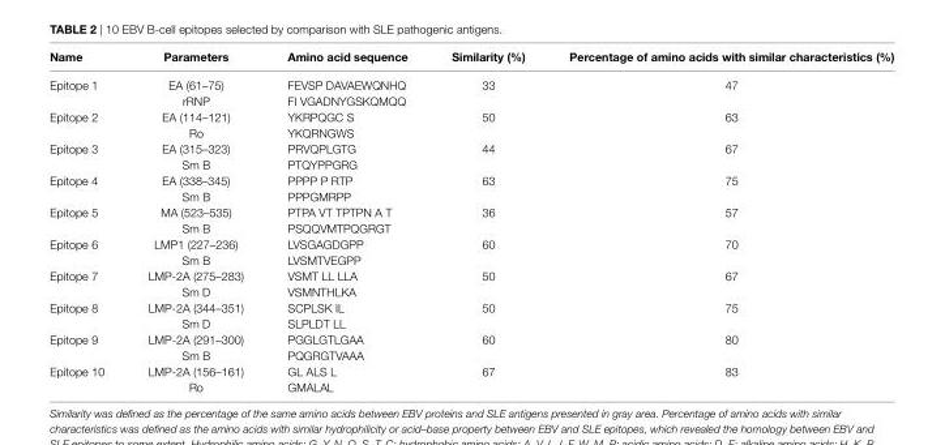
<table><thead><tr><td>name</td><td>Parameters</td><td>amino acid sequence</td><td>similarity (%)</td><td>Percentage of amino acids with similar characteristics (%)</td></tr></thead><tbody><tr><td rowspan="2">Epitope 1</td><td>EA (61–75)</td><td>FEVSP DAVAEWQNHQ</td><td rowspan="2">33</td><td rowspan="2">47</td></tr><tr><td>rRNP</td><td>FI VGADNYGSKQMQQ</td></tr><tr><td rowspan="2">Epitope 2</td><td>EA (114–121)</td><td>YKRPQGC S</td><td rowspan="2">50</td><td rowspan="2">63</td></tr><tr><td>Ro</td><td>YKQRNGWS</td></tr><tr><td rowspan="2">Epitope 3</td><td>EA (315–323)</td><td>PRVQPLGTG</td><td rowspan="2">44</td><td rowspan="2">67</td></tr><tr><td>Sm B</td><td>PTQYPPGRG</td></tr><tr><td rowspan="2">Epitope 4</td><td>EA (338–345)</td><td>PPPP P RTP</td><td rowspan="2">63</td><td rowspan="2">75</td></tr><tr><td>Sm B</td><td>PPPGMRPP</td></tr><tr><td rowspan="2">Epitope 5</td><td>MA (523–535)</td><td>PTPA VT TPTPN A T</td><td rowspan="2">36</td><td rowspan="2">57</td></tr><tr><td>Sm B</td><td>PSQQVMTPQGRGT</td></tr><tr><td rowspan="2">Epitope 6</td><td>LMP1 (227–236)</td><td>LVSGAGDGPP</td><td rowspan="2">60</td><td rowspan="2">70</td></tr><tr><td>Sm B</td><td>LVSMTVEGPP</td></tr><tr><td rowspan="2">Epitope 7</td><td>LMP-2A (275–283)</td><td>VSMT LL LLA</td><td rowspan="2">50</td><td rowspan="2">67</td></tr><tr><td>Sm D</td><td>VSMNTHLKA</td></tr><tr><td rowspan="2">Epitope 8</td><td>LMP-2A (344–351)</td><td>SCPLSK IL</td><td rowspan="2">50</td><td rowspan="2">75</td></tr><tr><td>Sm D</td><td>SLPLDT LL</td></tr><tr><td rowspan="2">Epitope 9</td><td>LMP-2A (291–300)</td><td>PGGLGTLGAA</td><td rowspan="2">60</td><td rowspan="2">80</td></tr><tr><td>Sm B</td><td>PQGRGTVAAA</td></tr><tr><td rowspan="2">Epitope 10</td><td>LMP-2A (156–161)</td><td>GL ALS L</td><td rowspan="2">67</td><td rowspan="2">83</td></tr><tr><td>Ro</td><td>GMALAL</td></tr></tbody></table>